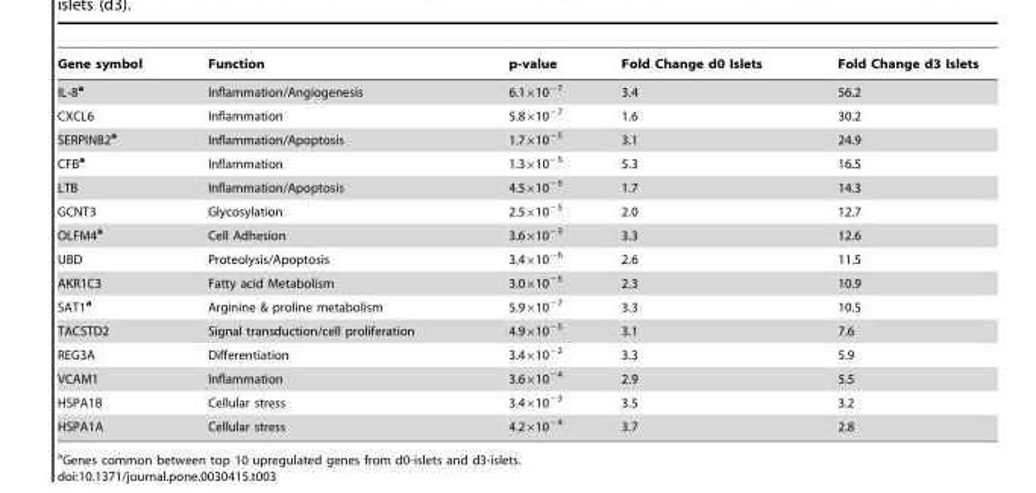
<table><thead><tr><td>Gene symbol</td><td>Function</td><td>p-value</td><td>Fold Change d0 Islets</td><td>Fold Change d3 Islets</td></tr></thead><tbody><tr><td>IL-8<sup>a</sup></td><td>Inflammation/Angiogenesis</td><td>6.1×10<sup>−7</sup></td><td>3.4</td><td>56.2</td></tr><tr><td>CXCL6</td><td>Inflammation</td><td>5.8×10<sup>−7</sup></td><td>1.6</td><td>30.2</td></tr><tr><td>SERPINB2<sup>a</sup></td><td>Inflammation/Apoptosis</td><td>1.7×10<sup>−5</sup></td><td>3.1</td><td>24.9</td></tr><tr><td>CFB<sup>a</sup></td><td>Inflammation</td><td>1.3×10<sup>−5</sup></td><td>5.3</td><td>16.5</td></tr><tr><td>LTB</td><td>Inflammation/Apoptosis</td><td>4.5×10<sup>−5</sup></td><td>1.7</td><td>14.3</td></tr><tr><td>GCNT3</td><td>Glycosylation</td><td>2.5×10<sup>−5</sup></td><td>2.0</td><td>12.7</td></tr><tr><td>OLFM4<sup>a</sup></td><td>Cell Adhesion</td><td>3.6×10<sup>−3</sup></td><td>3.3</td><td>12.6</td></tr><tr><td>UBD</td><td>Proteolysis/Apoptosis</td><td>3.4×10<sup>−6</sup></td><td>2.6</td><td>11.5</td></tr><tr><td>AKR1C3</td><td>Fatty acid Metabolism</td><td>3.0×10<sup>−5</sup></td><td>2.3</td><td>10.9</td></tr><tr><td>SAT1<sup>a</sup></td><td>Arginine &amp; proline metabolism</td><td>5.9×10<sup>−7</sup></td><td>3.3</td><td>10.5</td></tr><tr><td>TACSTD2</td><td>Signal transduction/cell proliferation</td><td>4.9×10<sup>−5</sup></td><td>3.1</td><td>7.6</td></tr><tr><td>REG3A</td><td>Differentiation</td><td>3.4×10<sup>−2</sup></td><td>3.3</td><td>5.9</td></tr><tr><td>VCAM1</td><td>Inflammation</td><td>3.6×10<sup>−4</sup></td><td>2.9</td><td>5.5</td></tr><tr><td>HSPA1B</td><td>Cellular stress</td><td>3.4×10<sup>−3</sup></td><td>3.5</td><td>3.2</td></tr><tr><td>HSPA1A</td><td>Cellular stress</td><td>4.2×10<sup>−4</sup></td><td>3.7</td><td>2.8</td></tr></tbody></table>